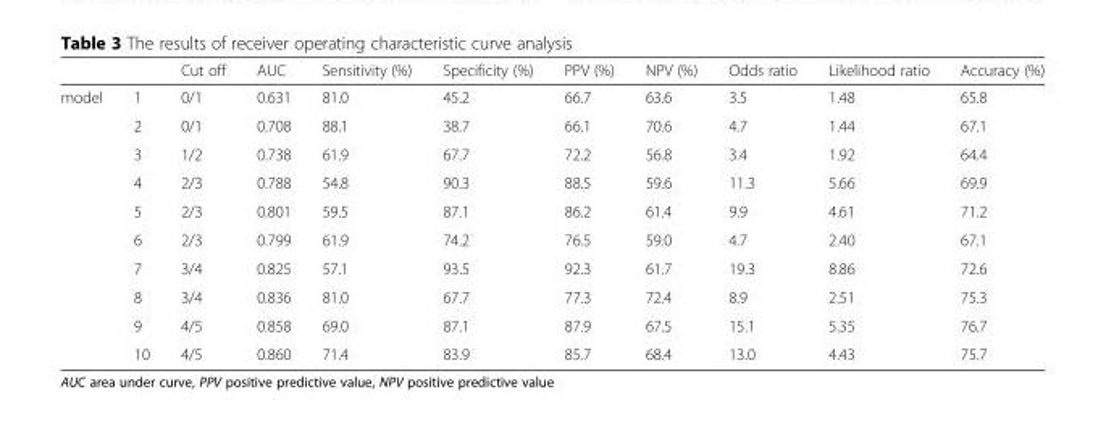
<table><thead><tr><td></td><td></td><td>Cut off</td><td>AUC</td><td>Sensitivity (%)</td><td>Specificity (%)</td><td>PPV (%)</td><td>NPV (%)</td><td>Odds ratio</td><td>Likelihood ratio</td><td>Accuracy (%)</td></tr></thead><tbody><tr><td rowspan="10">model</td><td>1</td><td>0/1</td><td>0.631</td><td>81.0</td><td>45.2</td><td>66.7</td><td>63.6</td><td>3.5</td><td>1.48</td><td>65.8</td></tr><tr><td>2</td><td>0/1</td><td>0.708</td><td>88.1</td><td>38.7</td><td>66.1</td><td>70.6</td><td>4.7</td><td>1.44</td><td>67.1</td></tr><tr><td>3</td><td>1/2</td><td>0.738</td><td>61.9</td><td>67.7</td><td>72.2</td><td>56.8</td><td>3.4</td><td>1.92</td><td>64.4</td></tr><tr><td>4</td><td>2/3</td><td>0.788</td><td>54.8</td><td>90.3</td><td>88.5</td><td>59.6</td><td>11.3</td><td>5.66</td><td>69.9</td></tr><tr><td>5</td><td>2/3</td><td>0.801</td><td>59.5</td><td>87.1</td><td>86.2</td><td>61.4</td><td>9.9</td><td>4.61</td><td>71.2</td></tr><tr><td>6</td><td>2/3</td><td>0.799</td><td>61.9</td><td>74.2</td><td>76.5</td><td>59.0</td><td>4.7</td><td>2.40</td><td>67.1</td></tr><tr><td>7</td><td>3/4</td><td>0.825</td><td>57.1</td><td>93.5</td><td>92.3</td><td>61.7</td><td>19.3</td><td>8.86</td><td>72.6</td></tr><tr><td>8</td><td>3/4</td><td>0.836</td><td>81.0</td><td>67.7</td><td>77.3</td><td>72.4</td><td>8.9</td><td>2.51</td><td>75.3</td></tr><tr><td>9</td><td>4/5</td><td>0.858</td><td>69.0</td><td>87.1</td><td>87.9</td><td>67.5</td><td>15.1</td><td>5.35</td><td>76.7</td></tr><tr><td>10</td><td>4/5</td><td>0.860</td><td>71.4</td><td>83.9</td><td>85.7</td><td>68.4</td><td>13.0</td><td>4.43</td><td>75.7</td></tr></tbody></table>